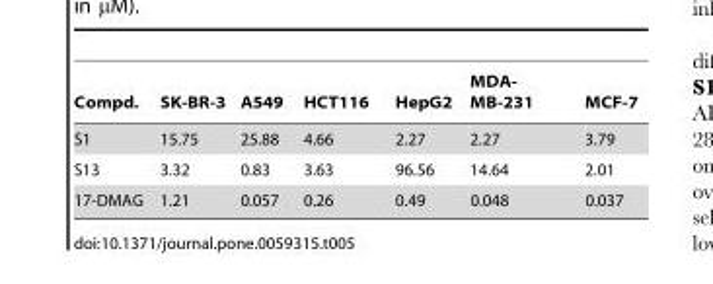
<table><thead><tr><td>Compd.</td><td>SK-BR-3</td><td>A549</td><td>HCT116</td><td>HepG2</td><td>MDA- MB-231</td><td>MCF-7</td></tr></thead><tbody><tr><td>S1</td><td>15.75</td><td>25.88</td><td>4.66</td><td>2.27</td><td>2.27</td><td>3.79</td></tr><tr><td>S13</td><td>3.32</td><td>0.83</td><td>3.63</td><td>96.56</td><td>14.64</td><td>2.01</td></tr><tr><td>17-DMAG</td><td>1.21</td><td>0.057</td><td>0.26</td><td>0.49</td><td>0.048</td><td>0.037</td></tr></tbody></table>